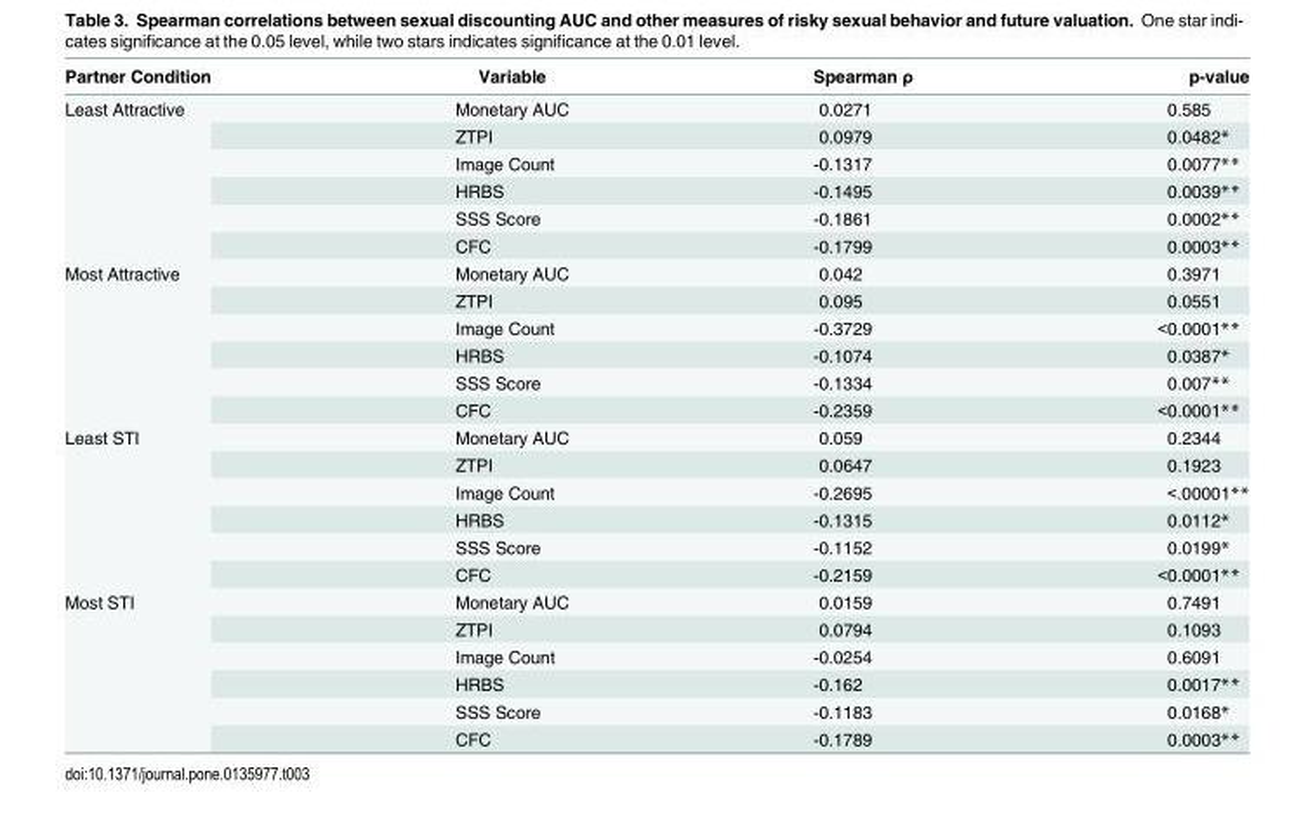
<table><thead><tr><td>Partner Condition</td><td>Variable</td><td>Spearman ρ</td><td>p-value</td></tr></thead><tbody><tr><td rowspan="6">Least Attractive</td><td>Monetary AUC</td><td>0.0271</td><td>0.585</td></tr><tr><td>ZTPI</td><td>0.0979</td><td>0.0482*</td></tr><tr><td>Image Count</td><td>-0.1317</td><td>0.0077**</td></tr><tr><td>HRBS</td><td>-0.1495</td><td>0.0039**</td></tr><tr><td>SSS Score</td><td>-0.1861</td><td>0.0002**</td></tr><tr><td>CFC</td><td>-0.1799</td><td>0.0003**</td></tr><tr><td rowspan="6">Most Attractive</td><td>Monetary AUC</td><td>0.042</td><td>0.3971</td></tr><tr><td>ZTPI</td><td>0.095</td><td>0.0551</td></tr><tr><td>Image Count</td><td>-0.3729</td><td>&lt;0.0001**</td></tr><tr><td>HRBS</td><td>-0.1074</td><td>0.0387*</td></tr><tr><td>SSS Score</td><td>-0.1334</td><td>0.007**</td></tr><tr><td>CFC</td><td>-0.2359</td><td>&lt;0.0001**</td></tr><tr><td rowspan="6">Least STI</td><td>Monetary AUC</td><td>0.059</td><td>0.2344</td></tr><tr><td>ZTPI</td><td>0.0647</td><td>0.1923</td></tr><tr><td>Image Count</td><td>-0.2695</td><td>&lt;.00001**</td></tr><tr><td>HRBS</td><td>-0.1315</td><td>0.0112*</td></tr><tr><td>SSS Score</td><td>-0.1152</td><td>0.0199*</td></tr><tr><td>CFC</td><td>-0.2159</td><td>&lt;0.0001**</td></tr><tr><td rowspan="6">Most STI</td><td>Monetary AUC</td><td>0.0159</td><td>0.7491</td></tr><tr><td>ZTPI</td><td>0.0794</td><td>0.1093</td></tr><tr><td>Image Count</td><td>-0.0254</td><td>0.6091</td></tr><tr><td>HRBS</td><td>-0.162</td><td>0.0017**</td></tr><tr><td>SSS Score</td><td>-0.1183</td><td>0.0168*</td></tr><tr><td>CFC</td><td>-0.1789</td><td>0.0003**</td></tr></tbody></table>